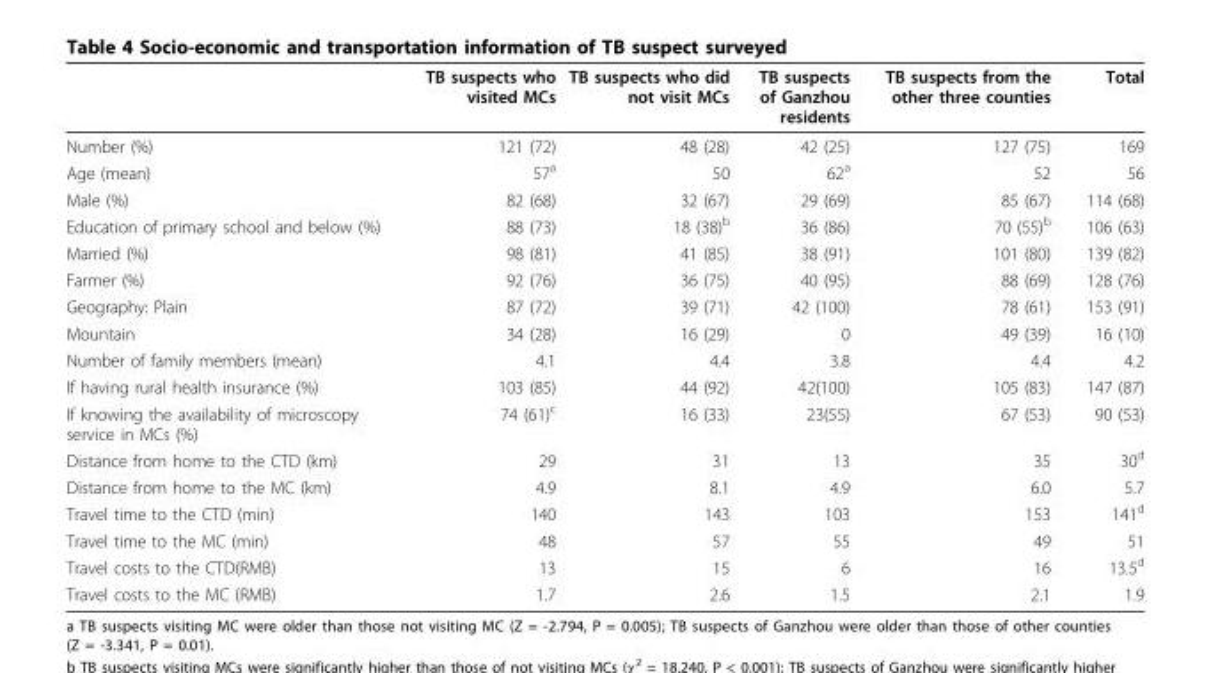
<table><thead><tr><td></td><td>TB suspects who visited MCs</td><td>TB suspects who did not visit MCs</td><td>TB suspects of Ganzhou residents</td><td>TB suspects from the other three counties</td><td>Total</td></tr></thead><tbody><tr><td>Number (%)</td><td>121 (72)</td><td>48 (28)</td><td>42 (25)</td><td>127 (75)</td><td>169</td></tr><tr><td>Age (mean)</td><td>57<sup>a</sup></td><td>50</td><td>62<sup>a</sup></td><td>52</td><td>56</td></tr><tr><td>Male (%)</td><td>82 (68)</td><td>32 (67)</td><td>29 (69)</td><td>85 (67)</td><td>114 (68)</td></tr><tr><td>Education of primary school and below (%)</td><td>88 (73)</td><td>18 (38)<sup>b</sup></td><td>36 (86)</td><td>70 (55)<sup>b</sup></td><td>106 (63)</td></tr><tr><td>Married (%)</td><td>98 (81)</td><td>41 (85)</td><td>38 (91)</td><td>101 (80)</td><td>139 (82)</td></tr><tr><td>Farmer (%)</td><td>92 (76)</td><td>36 (75)</td><td>40 (95)</td><td>88 (69)</td><td>128 (76)</td></tr><tr><td>Geography: Plain</td><td>87 (72)</td><td>39 (71)</td><td>42 (100)</td><td>78 (61)</td><td>153 (91)</td></tr><tr><td>Mountain</td><td>34 (28)</td><td>16 (29)</td><td>0</td><td>49 (39)</td><td>16 (10)</td></tr><tr><td>Number of family members (mean)</td><td>4.1</td><td>4.4</td><td>3.8</td><td>4.4</td><td>4.2</td></tr><tr><td>If having rural health insurance (%)</td><td>103 (85)</td><td>44 (92)</td><td>42(100)</td><td>105 (83)</td><td>147 (87)</td></tr><tr><td>If knowing the availability of microscopy service in MCs (%)</td><td>74 (61)<sup>c</sup></td><td>16 (33)</td><td>23(55)</td><td>67 (53)</td><td>90 (53)</td></tr><tr><td>Distance from home to the CTD (km)</td><td>29</td><td>31</td><td>13</td><td>35</td><td>30<sup>d</sup></td></tr><tr><td>Distance from home to the MC (km)</td><td>4.9</td><td>8.1</td><td>4.9</td><td>6.0</td><td>5.7</td></tr><tr><td>Travel time to the CTD (min)</td><td>140</td><td>143</td><td>103</td><td>153</td><td>141<sup>d</sup></td></tr><tr><td>Travel time to the MC (min)</td><td>48</td><td>57</td><td>55</td><td>49</td><td>51</td></tr><tr><td>Travel costs to the CTD(RMB)</td><td>13</td><td>15</td><td>6</td><td>16</td><td>13.5<sup>d</sup></td></tr><tr><td>Travel costs to the MC (RMB)</td><td>1.7</td><td>2.6</td><td>1.5</td><td>2.1</td><td>1.9</td></tr></tbody></table>